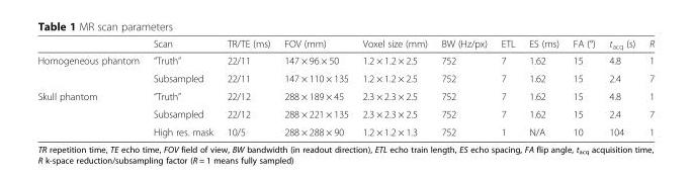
<table><thead><tr><td></td><td>Scan</td><td>TR/TE (ms)</td><td>FOV (mm)</td><td>Voxel size (mm)</td><td>BW (Hz/px)</td><td>ETL</td><td>ES (ms)</td><td>FA (°)</td><td>t<sub>acq</sub> (s)</td><td>R</td></tr></thead><tbody><tr><td rowspan="2">Homogeneous phantom</td><td>“Truth”</td><td>22/11</td><td>147 × 96 × 50</td><td>1.2 × 1.2 × 2.5</td><td>752</td><td>7</td><td>1.62</td><td>15</td><td>4.8</td><td>1</td></tr><tr><td>Subsampled</td><td>22/11</td><td>147 × 110 × 135</td><td>1.2 × 1.2 × 2.5</td><td>752</td><td>7</td><td>1.62</td><td>15</td><td>2.4</td><td>7</td></tr><tr><td rowspan="3">Skull phantom</td><td>“Truth”</td><td>22/12</td><td>288 × 189 × 45</td><td>2.3 × 2.3 × 2.5</td><td>752</td><td>7</td><td>1.62</td><td>15</td><td>4.8</td><td>1</td></tr><tr><td>Subsampled</td><td>22/12</td><td>288 × 221 × 135</td><td>2.3 × 2.3 × 2.5</td><td>752</td><td>7</td><td>1.62</td><td>15</td><td>2.4</td><td>7</td></tr><tr><td>High res. mask</td><td>10/5</td><td>288 × 288 × 90</td><td>1.2 × 1.2 × 1.3</td><td>752</td><td>1</td><td>N/A</td><td>10</td><td>104</td><td>1</td></tr></tbody></table>